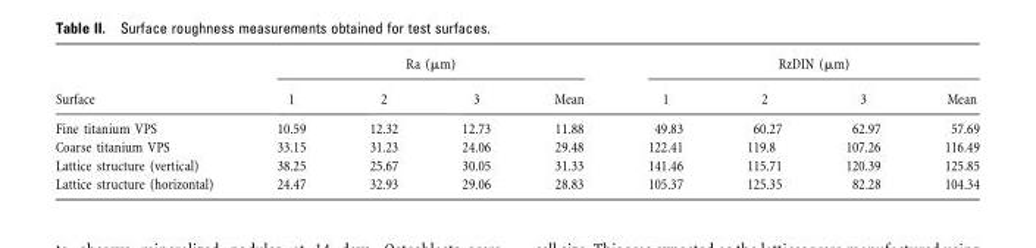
<table><thead><tr><td rowspan="2">Surface</td><td colspan="4">Ra (μm)</td><td colspan="4">RzDIN (μm)</td></tr><tr><td>1</td><td>2</td><td>3</td><td>Mean</td><td>1</td><td>2</td><td>3</td><td>Mean</td></tr></thead><tbody><tr><td>Fine titanium VPS</td><td>10.59</td><td>12.32</td><td>12.73</td><td>11.88</td><td>49.83</td><td>60.27</td><td>62.97</td><td>57.69</td></tr><tr><td>Coarse titanium VPS</td><td>33.15</td><td>31.23</td><td>24.06</td><td>29.48</td><td>122.41</td><td>119.8</td><td>107.26</td><td>116.49</td></tr><tr><td>Lattice structure (vertical)</td><td>38.25</td><td>25.67</td><td>30.05</td><td>31.33</td><td>141.46</td><td>115.71</td><td>120.39</td><td>125.85</td></tr><tr><td>Lattice structure (horizontal)</td><td>24.47</td><td>32.93</td><td>29.06</td><td>28.83</td><td>105.37</td><td>125.35</td><td>82.28</td><td>104.34</td></tr></tbody></table>